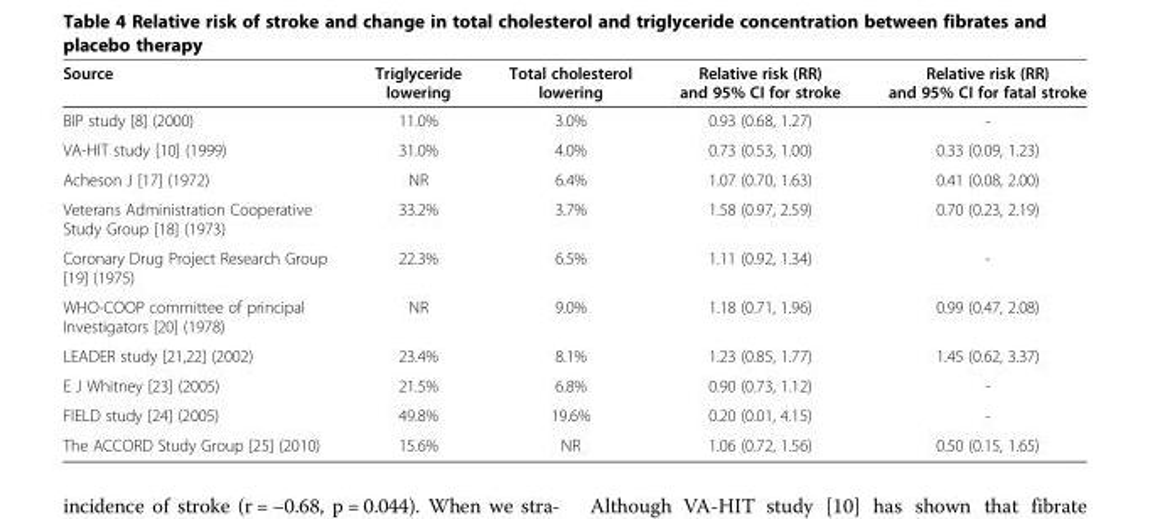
<table><thead><tr><td>Source</td><td>Triglyceride lowering</td><td>Total cholesterol lowering</td><td>Relative risk (RR) and 95% CI for stroke</td><td>Relative risk (RR) and 95% CI for fatal stroke</td></tr></thead><tbody><tr><td>BIP study [8] (2000)</td><td>11.0%</td><td>3.0%</td><td>0.93 (0.68, 1.27)</td><td>-</td></tr><tr><td>VA-HIT study [10] (1999)</td><td>31.0%</td><td>4.0%</td><td>0.73 (0.53, 1.00)</td><td>0.33 (0.09, 1.23)</td></tr><tr><td>Acheson J [17] (1972)</td><td>NR</td><td>6.4%</td><td>1.07 (0.70, 1.63)</td><td>0.41 (0.08, 2.00)</td></tr><tr><td>Veterans Administration Cooperative Study Group [18] (1973)</td><td>33.2%</td><td>3.7%</td><td>1.58 (0.97, 2.59)</td><td>0.70 (0.23, 2.19)</td></tr><tr><td>Coronary Drug Project Research Group [19] (1975)</td><td>22.3%</td><td>6.5%</td><td>1.11 (0.92, 1.34)</td><td>-</td></tr><tr><td>WHO-COOP committee of principal Investigators [20] (1978)</td><td>NR</td><td>9.0%</td><td>1.18 (0.71, 1.96)</td><td>0.99 (0.47, 2.08)</td></tr><tr><td>LEADER study [21,22] (2002)</td><td>23.4%</td><td>8.1%</td><td>1.23 (0.85, 1.77)</td><td>1.45 (0.62, 3.37)</td></tr><tr><td>E J Whitney [23] (2005)</td><td>21.5%</td><td>6.8%</td><td>0.90 (0.73, 1.12)</td><td>-</td></tr><tr><td>FIELD study [24] (2005)</td><td>49.8%</td><td>19.6%</td><td>0.20 (0.01, 4.15)</td><td>-</td></tr><tr><td>The ACCORD Study Group [25] (2010)</td><td>15.6%</td><td>NR</td><td>1.06 (0.72, 1.56)</td><td>0.50 (0.15, 1.65)</td></tr></tbody></table>